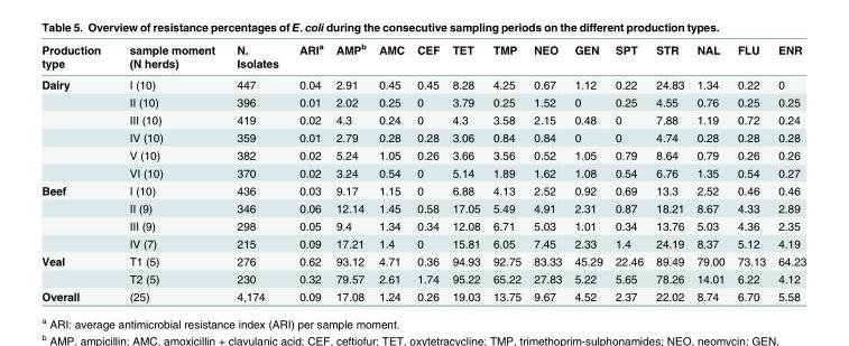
<table><thead><tr><td>Production type</td><td>sample moment (N herds)</td><td>N. Isolates</td><td>ARI<sup>a</sup></td><td>AMP<sup>b</sup></td><td>AMC</td><td>CEF</td><td>TET</td><td>TMP</td><td>NEO</td><td>GEN</td><td>SPT</td><td>STR</td><td>NAL</td><td>FLU</td><td>ENR</td></tr></thead><tbody><tr><td rowspan="6">Dairy</td><td>I (10)</td><td>447</td><td>0.04</td><td>2.91</td><td>0.45</td><td>0.45</td><td>8.28</td><td>4.25</td><td>0.67</td><td>1.12</td><td>0.22</td><td>24.83</td><td>1.34</td><td>0.22</td><td>0</td></tr><tr><td>II (10)</td><td>396</td><td>0.01</td><td>2.02</td><td>0.25</td><td>0</td><td>3.79</td><td>0.25</td><td>1.52</td><td>0</td><td>0.25</td><td>4.55</td><td>0.76</td><td>0.25</td><td>0.25</td></tr><tr><td>III (10)</td><td>419</td><td>0.02</td><td>4.3</td><td>0.24</td><td>0</td><td>4.3</td><td>3.58</td><td>2.15</td><td>0.48</td><td>0</td><td>7.88</td><td>1.19</td><td>0.72</td><td>0.24</td></tr><tr><td>IV (10)</td><td>359</td><td>0.01</td><td>2.79</td><td>0.28</td><td>0.28</td><td>3.06</td><td>0.84</td><td>0.84</td><td>0</td><td>0</td><td>4.74</td><td>0.28</td><td>0.28</td><td>0.28</td></tr><tr><td>V (10)</td><td>382</td><td>0.02</td><td>5.24</td><td>1.05</td><td>0.26</td><td>3.66</td><td>3.56</td><td>0.52</td><td>1.05</td><td>0.79</td><td>8.64</td><td>0.79</td><td>0.26</td><td>0.26</td></tr><tr><td>VI (10)</td><td>370</td><td>0.02</td><td>3.24</td><td>0.54</td><td>0</td><td>5.14</td><td>1.89</td><td>1.62</td><td>1.08</td><td>0.54</td><td>6.76</td><td>1.35</td><td>0.54</td><td>0.27</td></tr><tr><td rowspan="4">Beef</td><td>I (10)</td><td>436</td><td>0.03</td><td>9.17</td><td>1.15</td><td>0</td><td>6.88</td><td>4.13</td><td>2.52</td><td>0.92</td><td>0.69</td><td>13.3</td><td>2.52</td><td>0.46</td><td>0.46</td></tr><tr><td>II (9)</td><td>346</td><td>0.06</td><td>12.14</td><td>1.45</td><td>0.58</td><td>17.05</td><td>5.49</td><td>4.91</td><td>2.31</td><td>0.87</td><td>18.21</td><td>8.67</td><td>4.33</td><td>2.89</td></tr><tr><td>III (9)</td><td>298</td><td>0.05</td><td>9.4</td><td>1.34</td><td>0.34</td><td>12.08</td><td>6.71</td><td>5.03</td><td>1.01</td><td>0.34</td><td>13.76</td><td>5.03</td><td>4.36</td><td>2.35</td></tr><tr><td>IV (7)</td><td>215</td><td>0.09</td><td>17.21</td><td>1.4</td><td>0</td><td>15.81</td><td>6.05</td><td>7.45</td><td>2.33</td><td>1.4</td><td>24.19</td><td>8.37</td><td>5.12</td><td>4.19</td></tr><tr><td rowspan="2">Veal</td><td>T1 (5)</td><td>276</td><td>0.62</td><td>93.12</td><td>4.71</td><td>0.36</td><td>94.93</td><td>92.75</td><td>83.33</td><td>45.29</td><td>22.46</td><td>89.49</td><td>79.00</td><td>73.13</td><td>64.23</td></tr><tr><td>T2 (5)</td><td>230</td><td>0.32</td><td>79.57</td><td>2.61</td><td>1.74</td><td>95.22</td><td>65.22</td><td>27.83</td><td>5.22</td><td>5.65</td><td>78.26</td><td>14.01</td><td>6.22</td><td>4.12</td></tr><tr><td>Overall</td><td>(25)</td><td>4,174</td><td>0.09</td><td>17.08</td><td>1.24</td><td>0.26</td><td>19.03</td><td>13.75</td><td>9.67</td><td>4.52</td><td>2.37</td><td>22.02</td><td>8.74</td><td>6.70</td><td>5.58</td></tr></tbody></table>